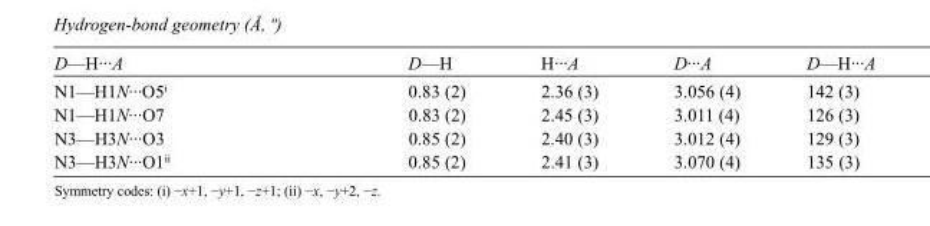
<table><tbody><tr><td>D—H···A</td><td>D—H</td><td>H···A</td><td>D···A</td><td>D—H···A</td></tr><tr><td>N1—H1N···O5<sup>i</sup></td><td>0.83 (2)</td><td>2.36 (3)</td><td>3.056 (4)</td><td>142 (3)</td></tr><tr><td>N1—H1N···O7</td><td>0.83 (2)</td><td>2.45 (3)</td><td>3.011 (4)</td><td>126 (3)</td></tr><tr><td>N3—H3N···O3</td><td>0.85 (2)</td><td>2.40 (3)</td><td>3.012 (4)</td><td>129 (3)</td></tr><tr><td>N3—H3N···O1<sup>ii</sup></td><td>0.85 (2)</td><td>2.41 (3)</td><td>3.070 (4)</td><td>135 (3)</td></tr></tbody></table>